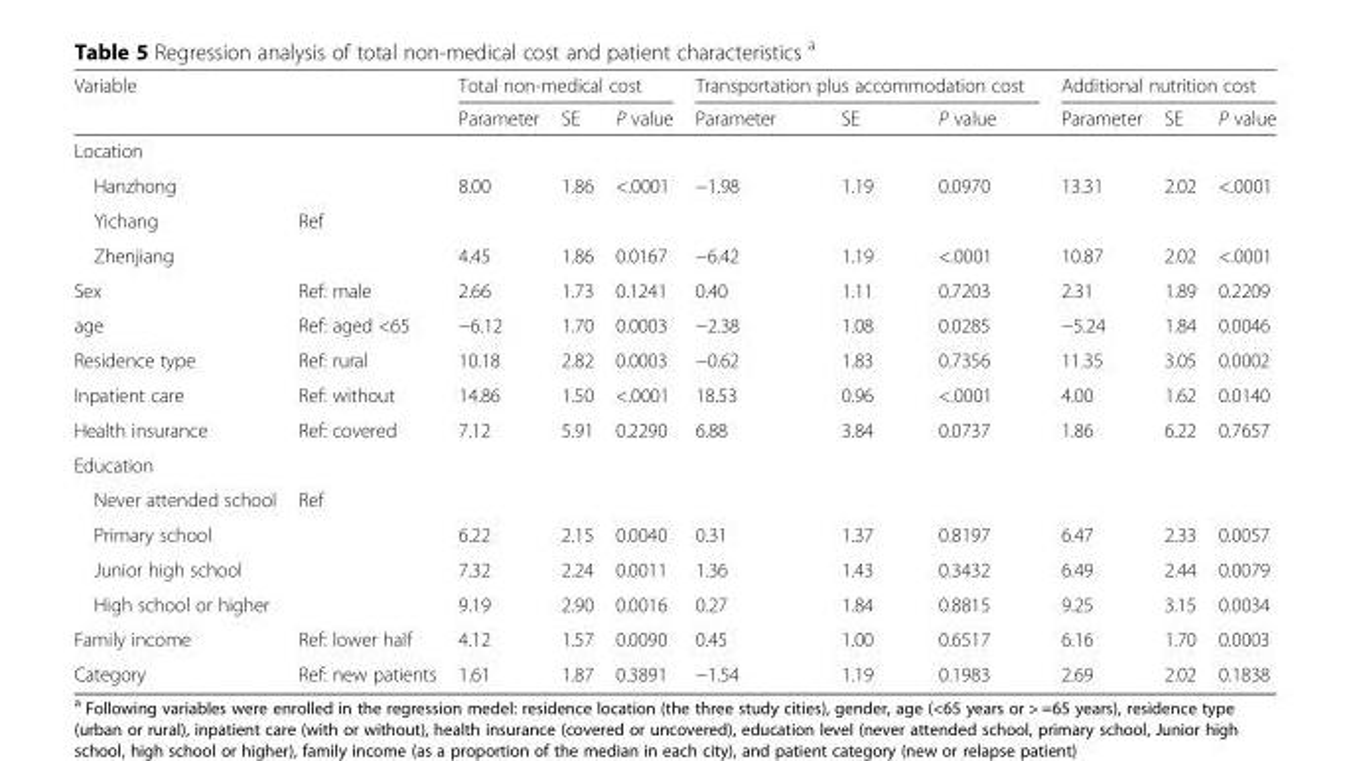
<table><thead><tr><td rowspan="2">Variable</td><td rowspan="2"></td><td colspan="3">Total non-medical cost</td><td colspan="3">Transportation plus accommodation cost</td><td colspan="3">Additional nutrition cost</td></tr><tr><td>Parameter</td><td>SE</td><td>P value</td><td>Parameter</td><td>SE</td><td>P value</td><td>Parameter</td><td>SE</td><td>P value</td></tr></thead><tbody><tr><td colspan="11">Location</td></tr><tr><td>Hanzhong</td><td></td><td>8.00</td><td>1.86</td><td>&lt;.0001</td><td>−1.98</td><td>1.19</td><td>0.0970</td><td>13.31</td><td>2.02</td><td>&lt;.0001</td></tr><tr><td>Yichang</td><td>Ref</td><td></td><td></td><td></td><td></td><td></td><td></td><td></td><td></td><td></td></tr><tr><td>Zhenjiang</td><td></td><td>4.45</td><td>1.86</td><td>0.0167</td><td>−6.42</td><td>1.19</td><td>&lt;.0001</td><td>10.87</td><td>2.02</td><td>&lt;.0001</td></tr><tr><td>Sex</td><td>Ref: male</td><td>2.66</td><td>1.73</td><td>0.1241</td><td>0.40</td><td>1.11</td><td>0.7203</td><td>2.31</td><td>1.89</td><td>0.2209</td></tr><tr><td>age</td><td>Ref: aged &lt;65</td><td>−6.12</td><td>1.70</td><td>0.0003</td><td>−2.38</td><td>1.08</td><td>0.0285</td><td>−5.24</td><td>1.84</td><td>0.0046</td></tr><tr><td>Residence type</td><td>Ref: rural</td><td>10.18</td><td>2.82</td><td>0.0003</td><td>−0.62</td><td>1.83</td><td>0.7356</td><td>11.35</td><td>3.05</td><td>0.0002</td></tr><tr><td>Inpatient care</td><td>Ref: without</td><td>14.86</td><td>1.50</td><td>&lt;.0001</td><td>18.53</td><td>0.96</td><td>&lt;.0001</td><td>4.00</td><td>1.62</td><td>0.0140</td></tr><tr><td>Health insurance</td><td>Ref: covered</td><td>7.12</td><td>5.91</td><td>0.2290</td><td>6.88</td><td>3.84</td><td>0.0737</td><td>1.86</td><td>6.22</td><td>0.7657</td></tr><tr><td colspan="11">Education</td></tr><tr><td>Never attended school</td><td>Ref</td><td></td><td></td><td></td><td></td><td></td><td></td><td></td><td></td><td></td></tr><tr><td>Primary school</td><td></td><td>6.22</td><td>2.15</td><td>0.0040</td><td>0.31</td><td>1.37</td><td>0.8197</td><td>6.47</td><td>2.33</td><td>0.0057</td></tr><tr><td>Junior high school</td><td></td><td>7.32</td><td>2.24</td><td>0.0011</td><td>1.36</td><td>1.43</td><td>0.3432</td><td>6.49</td><td>2.44</td><td>0.0079</td></tr><tr><td>High school or higher</td><td></td><td>9.19</td><td>2.90</td><td>0.0016</td><td>0.27</td><td>1.84</td><td>0.8815</td><td>9.25</td><td>3.15</td><td>0.0034</td></tr><tr><td>Family income</td><td>Ref: lower half</td><td>4.12</td><td>1.57</td><td>0.0090</td><td>0.45</td><td>1.00</td><td>0.6517</td><td>6.16</td><td>1.70</td><td>0.0003</td></tr><tr><td>Category</td><td>Ref: new patients</td><td>1.61</td><td>1.87</td><td>0.3891</td><td>−1.54</td><td>1.19</td><td>0.1983</td><td>2.69</td><td>2.02</td><td>0.1838</td></tr></tbody></table>